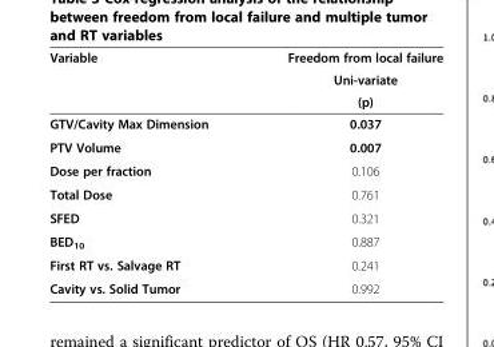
<table><thead><tr><td rowspan="3">Variable</td><td rowspan="3">Freedom from local failure Uni-variate (p)</td></tr><tr></tr><tr></tr></thead><tbody><tr><td>GTV/Cavity Max Dimension</td><td>0.037</td></tr><tr><td>PTV Volume</td><td>0.007</td></tr><tr><td>Dose per fraction</td><td>0.106</td></tr><tr><td>Total Dose</td><td>0.761</td></tr><tr><td>SFED</td><td>0.321</td></tr><tr><td>BED<sub>10</sub></td><td>0.887</td></tr><tr><td>First RT vs. Salvage RT</td><td>0.241</td></tr><tr><td>Cavity vs. Solid Tumor</td><td>0.992</td></tr></tbody></table>